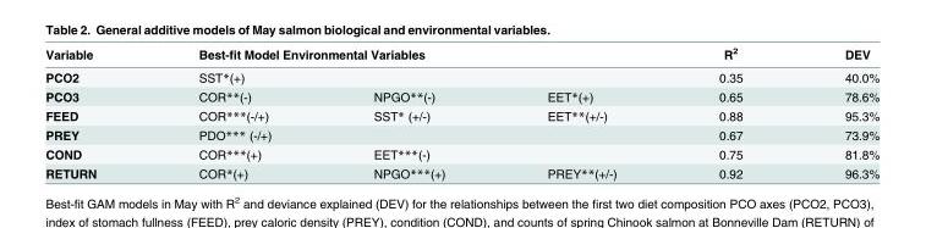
<table><thead><tr><td rowspan="2">Variable PCO2</td><td colspan="3">Best-fit Model Environmental Variables</td><td rowspan="2">R<sup>2</sup> 0.35</td><td rowspan="2">DEV 40.0%</td></tr><tr><td>SST*(+)</td><td></td><td></td></tr></thead><tbody><tr><td>PCO3</td><td>COR**(-)</td><td>NPGO**(-)</td><td>EET*(+)</td><td>0.65</td><td>78.6%</td></tr><tr><td>FEED</td><td>COR***(-/+)</td><td>SST* (+/-)</td><td>EET**(+/-)</td><td>0.88</td><td>95.3%</td></tr><tr><td>PREY</td><td>PDO*** (-/+)</td><td></td><td></td><td>0.67</td><td>73.9%</td></tr><tr><td>COND</td><td>COR***(+)</td><td>EET***(-)</td><td></td><td>0.75</td><td>81.8%</td></tr><tr><td>RETURN</td><td>COR*(+)</td><td>NPGO***(+)</td><td>PREY**(+/-)</td><td>0.92</td><td>96.3%</td></tr></tbody></table>